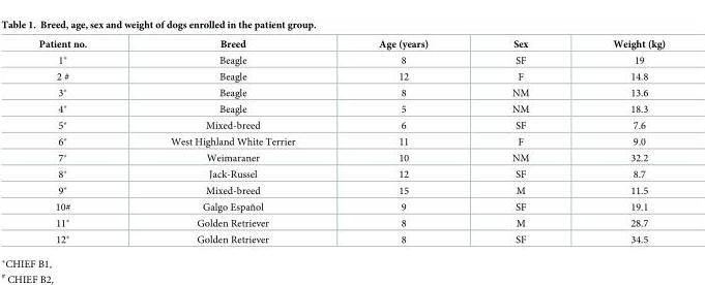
<table><thead><tr><td>Patient no.</td><td>Breed</td><td>Age (years)</td><td>Sex</td><td>Weight (kg)</td></tr></thead><tbody><tr><td>1*</td><td>Beagle</td><td>8</td><td>SF</td><td>19</td></tr><tr><td>2 #</td><td>Beagle</td><td>12</td><td>F</td><td>14.8</td></tr><tr><td>3*</td><td>Beagle</td><td>8</td><td>NM</td><td>13.6</td></tr><tr><td>4*</td><td>Beagle</td><td>5</td><td>NM</td><td>18.3</td></tr><tr><td>5*</td><td>Mixed-breed</td><td>6</td><td>SF</td><td>7.6</td></tr><tr><td>6*</td><td>West Highland White Terrier</td><td>11</td><td>F</td><td>9.0</td></tr><tr><td>7*</td><td>Weimaraner</td><td>10</td><td>NM</td><td>32.2</td></tr><tr><td>8*</td><td>Jack-Russel</td><td>12</td><td>SF</td><td>8.7</td></tr><tr><td>9*</td><td>Mixed-breed</td><td>15</td><td>M</td><td>11.5</td></tr><tr><td>10#</td><td>Galgo Español</td><td>9</td><td>SF</td><td>19.1</td></tr><tr><td>11*</td><td>Golden Retriever</td><td>8</td><td>M</td><td>28.7</td></tr><tr><td>12*</td><td>Golden Retriever</td><td>8</td><td>SF</td><td>34.5</td></tr></tbody></table>